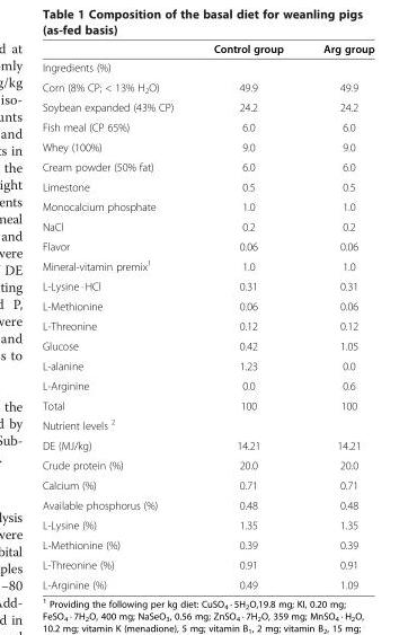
<table><thead><tr><td></td><td>Control group</td><td>Arg group</td></tr></thead><tbody><tr><td colspan="3">Ingredients (%)</td></tr><tr><td>Corn (8% CP; &lt; 13% H<sub>2</sub>O)</td><td>49.9</td><td>49.9</td></tr><tr><td>Soybean expanded (43% CP)</td><td>24.2</td><td>24.2</td></tr><tr><td>Fish meal (CP 65%)</td><td>6.0</td><td>6.0</td></tr><tr><td>Whey (100%)</td><td>9.0</td><td>9.0</td></tr><tr><td>Cream powder (50% fat)</td><td>6.0</td><td>6.0</td></tr><tr><td>Limestone</td><td>0.5</td><td>0.5</td></tr><tr><td>Monocalcium phosphate</td><td>1.0</td><td>1.0</td></tr><tr><td>NaCl</td><td>0.2</td><td>0.2</td></tr><tr><td>Flavor</td><td>0.06</td><td>0.06</td></tr><tr><td>Mineral-vitamin premix<sup>1</sup></td><td>1.0</td><td>1.0</td></tr><tr><td>L-Lysine · HCl</td><td>0.31</td><td>0.31</td></tr><tr><td>L-Methionine</td><td>0.06</td><td>0.06</td></tr><tr><td>L-Threonine</td><td>0.12</td><td>0.12</td></tr><tr><td>Glucose</td><td>0.42</td><td>1.05</td></tr><tr><td>L-alanine</td><td>1.23</td><td>0.0</td></tr><tr><td>L-Arginine</td><td>0.0</td><td>0.6</td></tr><tr><td>Total</td><td>100</td><td>100</td></tr><tr><td colspan="3">Nutrient levels <sup>2</sup></td></tr><tr><td>DE (MJ/kg)</td><td>14.21</td><td>14.21</td></tr><tr><td>Crude protein (%)</td><td>20.0</td><td>20.0</td></tr><tr><td>Calcium (%)</td><td>0.71</td><td>0.71</td></tr><tr><td>Available phosphorus (%)</td><td>0.48</td><td>0.48</td></tr><tr><td>L-Lysine (%)</td><td>1.35</td><td>1.35</td></tr><tr><td>L-Methionine (%)</td><td>0.39</td><td>0.39</td></tr><tr><td>L-Threonine (%)</td><td>0.91</td><td>0.91</td></tr><tr><td>L-Arginine (%)</td><td>0.49</td><td>1.09</td></tr></tbody></table>